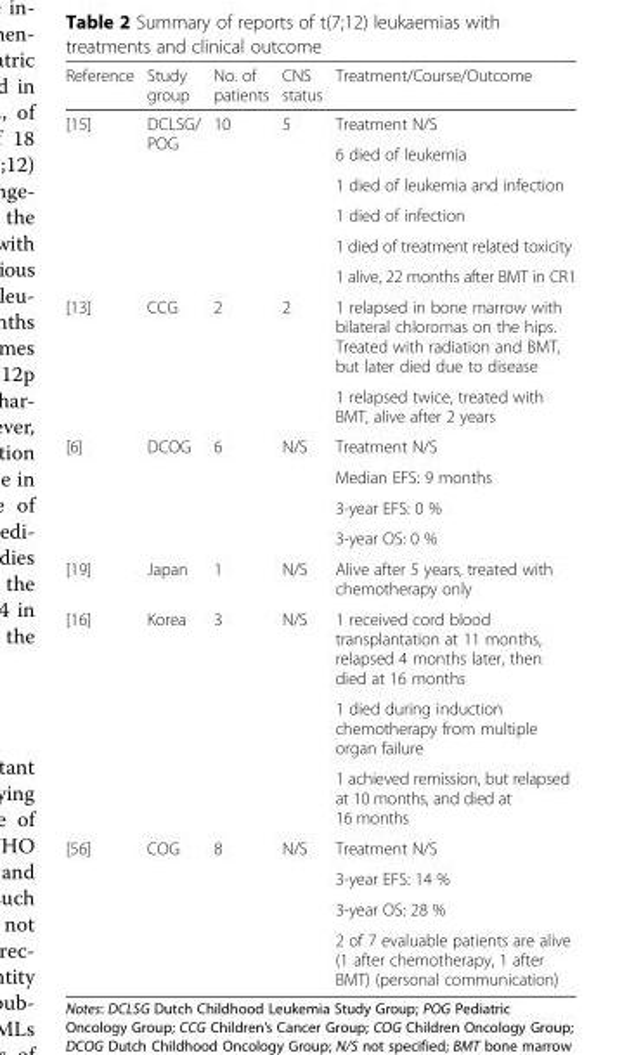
<table><thead><tr><td>Reference</td><td>Study group</td><td>No. of patients</td><td>CNS status</td><td>Treatment/Course/Outcome</td></tr></thead><tbody><tr><td rowspan="6">[15]</td><td rowspan="6">DCLSG/ POG</td><td rowspan="6">10</td><td rowspan="6">5</td><td>Treatment N/S</td></tr><tr><td>6 died of leukemia</td></tr><tr><td>1 died of leukemia and infection</td></tr><tr><td>1 died of infection</td></tr><tr><td>1 died of treatment related toxicity</td></tr><tr><td>1 alive, 22 months after BMT in CR1</td></tr><tr><td rowspan="2">[13]</td><td rowspan="2">CCG</td><td rowspan="2">2</td><td rowspan="2">2</td><td>1 relapsed in bone marrow with bilateral chloromas on the hips. Treated with radiation and BMT, but later died due to disease</td></tr><tr><td>1 relapsed twice, treated with BMT, alive after 2 years</td></tr><tr><td rowspan="4">[6]</td><td rowspan="4">DCOG</td><td rowspan="4">6</td><td rowspan="4">N/S</td><td>Treatment N/S</td></tr><tr><td>Median EFS: 9 months</td></tr><tr><td>3-year EFS: 0 %</td></tr><tr><td>3-year OS: 0 %</td></tr><tr><td>[19]</td><td>Japan</td><td>1</td><td>N/S</td><td>Alive after 5 years, treated with chemotherapy only</td></tr><tr><td rowspan="3">[16]</td><td rowspan="3">Korea</td><td rowspan="3">3</td><td rowspan="3">N/S</td><td>1 received cord blood transplantation at 11 months, relapsed 4 months later, then died at 16 months</td></tr><tr><td>1 died during induction chemotherapy from multiple organ failure</td></tr><tr><td>1 achieved remission, but relapsed at 10 months, and died at 16 months</td></tr><tr><td rowspan="4">[56]</td><td rowspan="4">COG</td><td rowspan="4">8</td><td rowspan="4">N/S</td><td>Treatment N/S</td></tr><tr><td>3-year EFS: 14 %</td></tr><tr><td>3-year OS: 28 %</td></tr><tr><td>2 of 7 evaluable patients are alive (1 after chemotherapy, 1 after BMT) (personal communication)</td></tr></tbody></table>